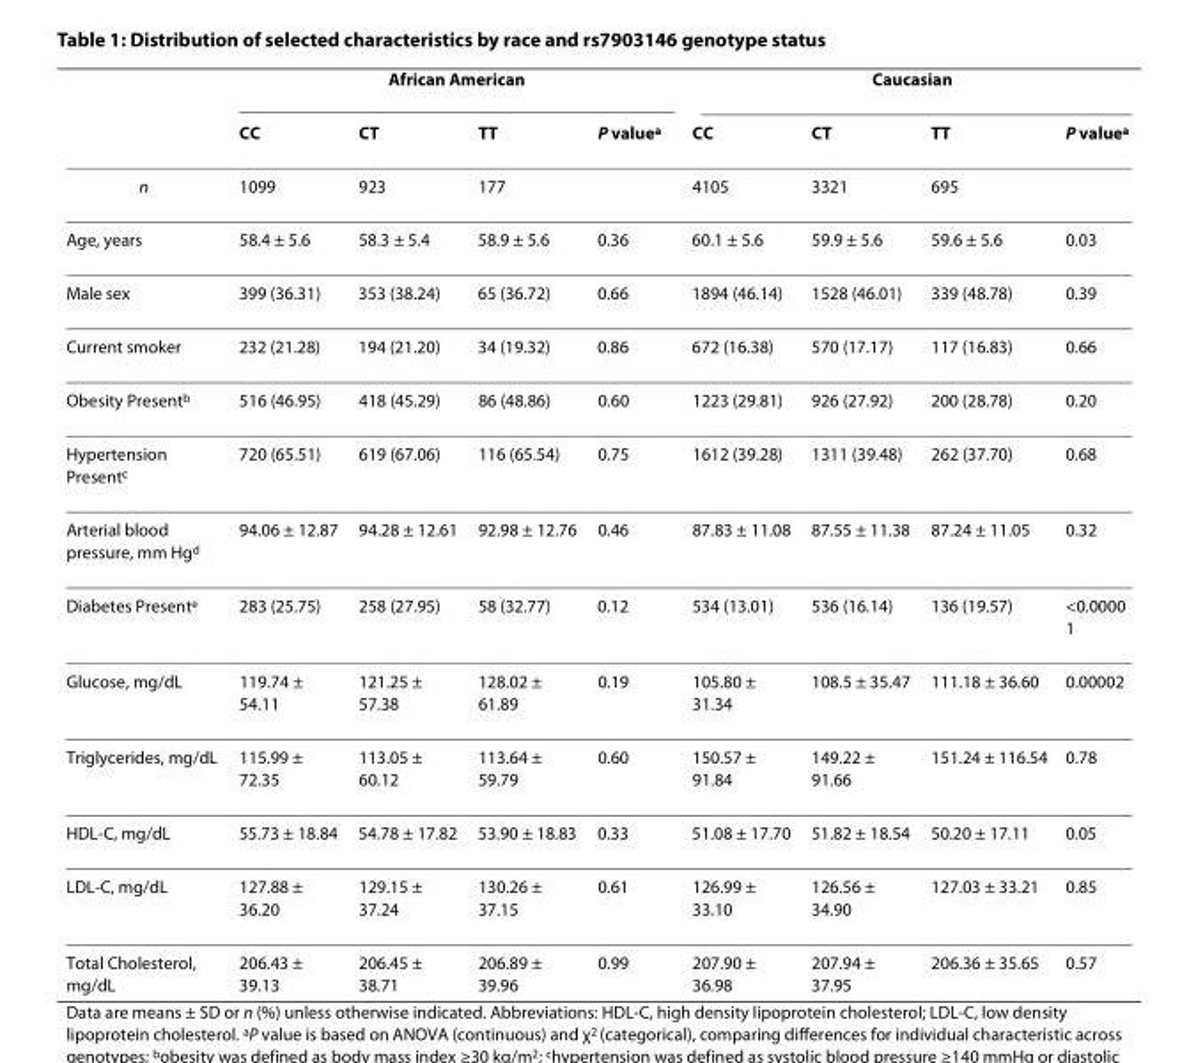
<table><thead><tr><td rowspan="2"></td><td colspan="4">African American</td><td colspan="4">Caucasian</td></tr><tr><td>CC</td><td>CT</td><td>TT</td><td>P value<sup>a</sup></td><td>CC</td><td>CT</td><td>TT</td><td>P value<sup>a</sup></td></tr></thead><tbody><tr><td>n</td><td>1099</td><td>923</td><td>177</td><td></td><td>4105</td><td>3321</td><td>695</td><td></td></tr><tr><td>Age, years</td><td>58.4 ± 5.6</td><td>58.3 ± 5.4</td><td>58.9 ± 5.6</td><td>0.36</td><td>60.1 ± 5.6</td><td>59.9 ± 5.6</td><td>59.6 ± 5.6</td><td>0.03</td></tr><tr><td>Male sex</td><td>399 (36.31)</td><td>353 (38.24)</td><td>65 (36.72)</td><td>0.66</td><td>1894 (46.14)</td><td>1528 (46.01)</td><td>339 (48.78)</td><td>0.39</td></tr><tr><td>Current smoker</td><td>232 (21.28)</td><td>194 (21.20)</td><td>34 (19.32)</td><td>0.86</td><td>672 (16.38)</td><td>570 (17.17)</td><td>117 (16.83)</td><td>0.66</td></tr><tr><td>Obesity Present<sup>b</sup></td><td>516 (46.95)</td><td>418 (45.29)</td><td>86 (48.86)</td><td>0.60</td><td>1223 (29.81)</td><td>926 (27.92)</td><td>200 (28.78)</td><td>0.20</td></tr><tr><td>Hypertension Present<sup>c</sup></td><td>720 (65.51)</td><td>619 (67.06)</td><td>116 (65.54)</td><td>0.75</td><td>1612 (39.28)</td><td>1311 (39.48)</td><td>262 (37.70)</td><td>0.68</td></tr><tr><td>Arterial blood pressure, mm Hg<sup>d</sup></td><td>94.06 ± 12.87</td><td>94.28 ± 12.61</td><td>92.98 ± 12.76</td><td>0.46</td><td>87.83 ± 11.08</td><td>87.55 ± 11.38</td><td>87.24 ± 11.05</td><td>0.32</td></tr><tr><td>Diabetes Present<sup>e</sup></td><td>283 (25.75)</td><td>258 (27.95)</td><td>58 (32.77)</td><td>0.12</td><td>534 (13.01)</td><td>536 (16.14)</td><td>136 (19.57)</td><td>&lt;0.0000 1</td></tr><tr><td>Glucose, mg/dL</td><td>119.74 ± 54.11</td><td>121.25 ± 57.38</td><td>128.02 ± 61.89</td><td>0.19</td><td>105.80 ± 31.34</td><td>108.5 ± 35.47</td><td>111.18 ± 36.60</td><td>0.00002</td></tr><tr><td>Triglycerides, mg/dL</td><td>115.99 ± 72.35</td><td>113.05 ± 60.12</td><td>113.64 ± 59.79</td><td>0.60</td><td>150.57 ± 91.84</td><td>149.22 ± 91.66</td><td>151.24 ± 116.54</td><td>0.78</td></tr><tr><td>HDL-C, mg/dL</td><td>55.73 ± 18.84</td><td>54.78 ± 17.82</td><td>53.90 ± 18.83</td><td>0.33</td><td>51.08 ± 17.70</td><td>51.82 ± 18.54</td><td>50.20 ± 17.11</td><td>0.05</td></tr><tr><td>LDL-C, mg/dL</td><td>127.88 ± 36.20</td><td>129.15 ± 37.24</td><td>130.26 ± 37.15</td><td>0.61</td><td>126.99 ± 33.10</td><td>126.56 ± 34.90</td><td>127.03 ± 33.21</td><td>0.85</td></tr><tr><td>Total Cholesterol, mg/dL</td><td>206.43 ± 39.13</td><td>206.45 ± 38.71</td><td>206.89 ± 39.96</td><td>0.99</td><td>207.90 ± 36.98</td><td>207.94 ± 37.95</td><td>206.36 ± 35.65</td><td>0.57</td></tr></tbody></table>